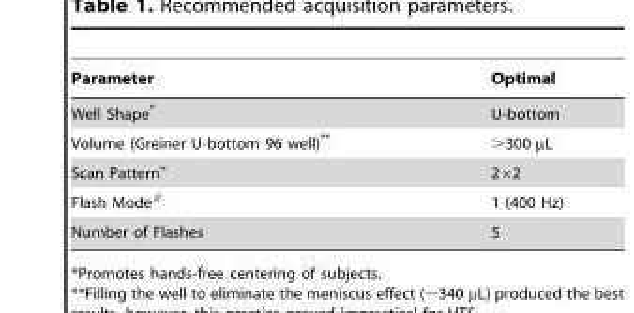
<table><thead><tr><td>Parameter</td><td>Optimal</td></tr></thead><tbody><tr><td>Well Shape*</td><td>U-bottom</td></tr><tr><td>Volume (Greiner U-bottom 96 well)**</td><td>&gt;300 µL</td></tr><tr><td>Scan Pattern+</td><td>2×2</td></tr><tr><td>Flash Mode#</td><td>1 (400 Hz)</td></tr><tr><td>Number of Flashes</td><td>5</td></tr></tbody></table>